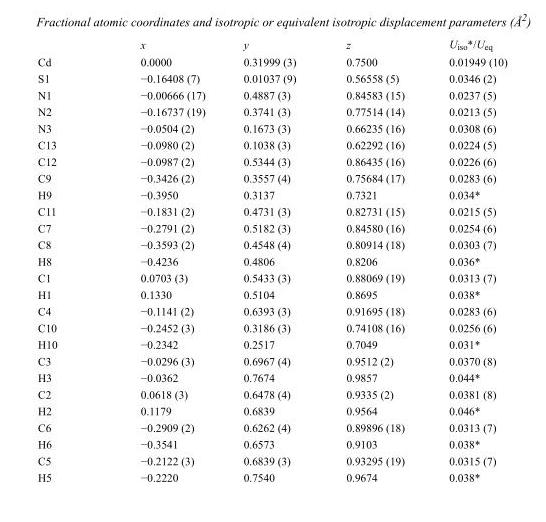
<table><thead><tr><td></td><td>x</td><td>y</td><td>z</td><td>U<sub>iso</sub>*/U<sub>eq</sub></td></tr></thead><tbody><tr><td>Cd</td><td>0.0000</td><td>0.31999 (3)</td><td>0.7500</td><td>0.01949 (10)</td></tr><tr><td>S1</td><td>−0.16408 (7)</td><td>0.01037 (9)</td><td>0.56558 (5)</td><td>0.0346 (2)</td></tr><tr><td>N1</td><td>−0.00666 (17)</td><td>0.4887 (3)</td><td>0.84583 (15)</td><td>0.0237 (5)</td></tr><tr><td>N2</td><td>−0.16737 (19)</td><td>0.3741 (3)</td><td>0.77514 (14)</td><td>0.0213 (5)</td></tr><tr><td>N3</td><td>−0.0504 (2)</td><td>0.1673 (3)</td><td>0.66235 (16)</td><td>0.0308 (6)</td></tr><tr><td>C13</td><td>−0.0980 (2)</td><td>0.1038 (3)</td><td>0.62292 (16)</td><td>0.0224 (5)</td></tr><tr><td>C12</td><td>−0.0987 (2)</td><td>0.5344 (3)</td><td>0.86435 (16)</td><td>0.0226 (6)</td></tr><tr><td>C9</td><td>−0.3426 (2)</td><td>0.3557 (4)</td><td>0.75684 (17)</td><td>0.0283 (6)</td></tr><tr><td>H9</td><td>−0.3950</td><td>0.3137</td><td>0.7321</td><td>0.034*</td></tr><tr><td>C11</td><td>−0.1831 (2)</td><td>0.4731 (3)</td><td>0.82731 (15)</td><td>0.0215 (5)</td></tr><tr><td>C7</td><td>−0.2791 (2)</td><td>0.5182 (3)</td><td>0.84580 (16)</td><td>0.0254 (6)</td></tr><tr><td>C8</td><td>−0.3593 (2)</td><td>0.4548 (4)</td><td>0.80914 (18)</td><td>0.0303 (7)</td></tr><tr><td>H8</td><td>−0.4236</td><td>0.4806</td><td>0.8206</td><td>0.036*</td></tr><tr><td>C1</td><td>0.0703 (3)</td><td>0.5433 (3)</td><td>0.88069 (19)</td><td>0.0313 (7)</td></tr><tr><td>H1</td><td>0.1330</td><td>0.5104</td><td>0.8695</td><td>0.038*</td></tr><tr><td>C4</td><td>−0.1141 (2)</td><td>0.6393 (3)</td><td>0.91695 (18)</td><td>0.0283 (6)</td></tr><tr><td>C10</td><td>−0.2452 (3)</td><td>0.3186 (3)</td><td>0.74108 (16)</td><td>0.0256 (6)</td></tr><tr><td>H10</td><td>−0.2342</td><td>0.2517</td><td>0.7049</td><td>0.031*</td></tr><tr><td>C3</td><td>−0.0296 (3)</td><td>0.6967 (4)</td><td>0.9512 (2)</td><td>0.0370 (8)</td></tr><tr><td>H3</td><td>−0.0362</td><td>0.7674</td><td>0.9857</td><td>0.044*</td></tr><tr><td>C2</td><td>0.0618 (3)</td><td>0.6478 (4)</td><td>0.9335 (2)</td><td>0.0381 (8)</td></tr><tr><td>H2</td><td>0.1179</td><td>0.6839</td><td>0.9564</td><td>0.046*</td></tr><tr><td>C6</td><td>−0.2909 (2)</td><td>0.6262 (4)</td><td>0.89896 (18)</td><td>0.0313 (7)</td></tr><tr><td>H6</td><td>−0.3541</td><td>0.6573</td><td>0.9103</td><td>0.038*</td></tr><tr><td>C5</td><td>−0.2122 (3)</td><td>0.6839 (3)</td><td>0.93295 (19)</td><td>0.0315 (7)</td></tr><tr><td>H5</td><td>−0.2220</td><td>0.7540</td><td>0.9674</td><td>0.038*</td></tr></tbody></table>